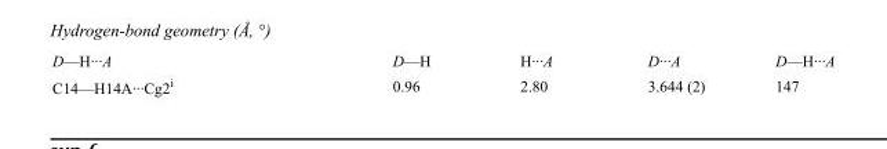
<table><tbody><tr><td>D—H···A</td><td>D—H</td><td>H···A</td><td>D···A</td><td>D—H···A</td></tr><tr><td>C14—H14A···Cg2<sup>i</sup></td><td>0.96</td><td>2.80</td><td>3.644 (2)</td><td>147</td></tr></tbody></table>